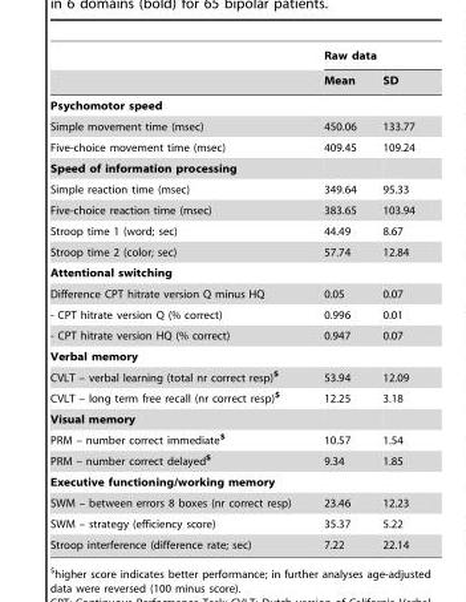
<table><thead><tr><td rowspan="2"></td><td colspan="2">Raw data</td></tr><tr><td>Mean</td><td>SD</td></tr></thead><tbody><tr><td colspan="3">Psychomotor speed</td></tr><tr><td>Simple movement time (msec)</td><td>450.06</td><td>133.77</td></tr><tr><td>Five-choice movement time (msec)</td><td>409.45</td><td>109.24</td></tr><tr><td colspan="3">Speed of information processing</td></tr><tr><td>Simple reaction time (msec)</td><td>349.64</td><td>95.33</td></tr><tr><td>Five-choice reaction time (msec)</td><td>383.65</td><td>103.94</td></tr><tr><td>Stroop time 1 (word; sec)</td><td>44.49</td><td>8.67</td></tr><tr><td>Stroop time 2 (color; sec)</td><td>57.74</td><td>12.84</td></tr><tr><td colspan="3">Attentional switching</td></tr><tr><td>Difference CPT hitrate version Q minus HQ</td><td>0.05</td><td>0.07</td></tr><tr><td>- CPT hitrate version Q (% correct)</td><td>0.996</td><td>0.01</td></tr><tr><td>- CPT hitrate version HQ (% correct)</td><td>0.947</td><td>0.07</td></tr><tr><td colspan="3">Verbal memory</td></tr><tr><td>CVLT – verbal learning (total nr correct resp)$</td><td>53.94</td><td>12.09</td></tr><tr><td>CVLT – long term free recall (nr correct resp)$</td><td>12.25</td><td>3.18</td></tr><tr><td colspan="3">Visual memory</td></tr><tr><td>PRM – number correct immediate$</td><td>10.57</td><td>1.54</td></tr><tr><td>PRM – number correct delayed$</td><td>9.34</td><td>1.85</td></tr><tr><td colspan="3">Executive functioning/working memory</td></tr><tr><td>SWM – between errors 8 boxes (nr correct resp)</td><td>23.46</td><td>12.23</td></tr><tr><td>SWM – strategy (efficiency score)</td><td>35.37</td><td>5.22</td></tr><tr><td>Stroop interference (difference rate; sec)</td><td>7.22</td><td>22.14</td></tr></tbody></table>